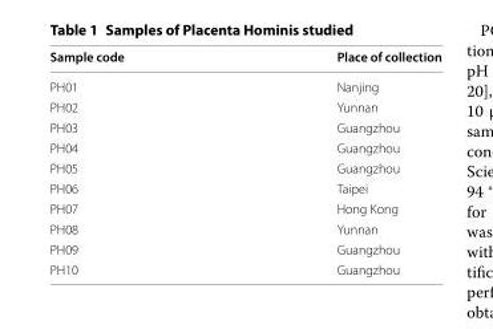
<table><thead><tr><td>Sample code</td><td>Place of collection</td></tr></thead><tbody><tr><td>PH01</td><td>Nanjing</td></tr><tr><td>PH02</td><td>Yunnan</td></tr><tr><td>PH03</td><td>Guangzhou</td></tr><tr><td>PH04</td><td>Guangzhou</td></tr><tr><td>PH05</td><td>Guangzhou</td></tr><tr><td>PH06</td><td>Taipei</td></tr><tr><td>PH07</td><td>Hong Kong</td></tr><tr><td>PH08</td><td>Yunnan</td></tr><tr><td>PH09</td><td>Guangzhou</td></tr><tr><td>PH10</td><td>Guangzhou</td></tr></tbody></table>